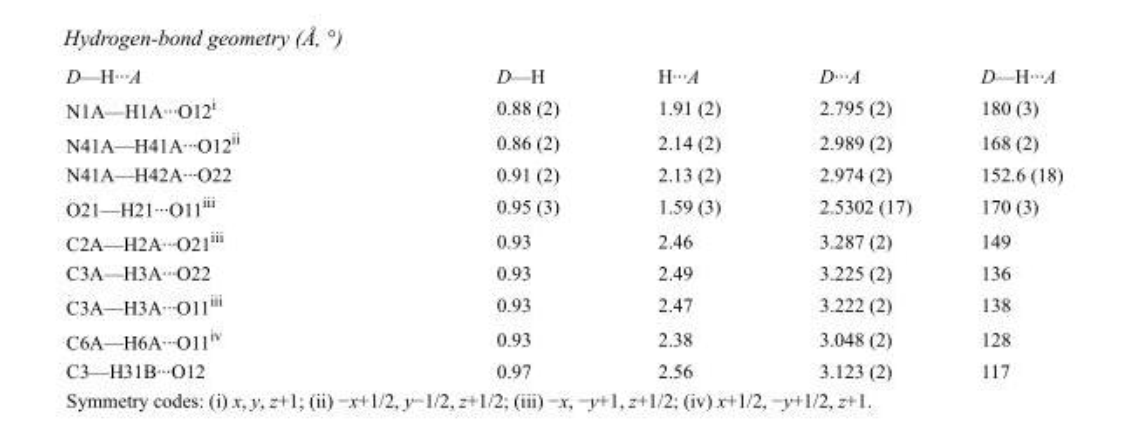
<table><tbody><tr><td>D—H···A</td><td>D—H</td><td>H···A</td><td>D···A</td><td>D—H···A</td></tr><tr><td>N1A—H1A···O12<sup>i</sup></td><td>0.88 (2)</td><td>1.91 (2)</td><td>2.795 (2)</td><td>180 (3)</td></tr><tr><td>N41A—H41A···O12<sup>ii</sup></td><td>0.86 (2)</td><td>2.14 (2)</td><td>2.989 (2)</td><td>168 (2)</td></tr><tr><td>N41A—H42A···O22</td><td>0.91 (2)</td><td>2.13 (2)</td><td>2.974 (2)</td><td>152.6 (18)</td></tr><tr><td>O21—H21···O11<sup>iii</sup></td><td>0.95 (3)</td><td>1.59 (3)</td><td>2.5302 (17)</td><td>170 (3)</td></tr><tr><td>C2A—H2A···O21<sup>iii</sup></td><td>0.93</td><td>2.46</td><td>3.287 (2)</td><td>149</td></tr><tr><td>C3A—H3A···O22</td><td>0.93</td><td>2.49</td><td>3.225 (2)</td><td>136</td></tr><tr><td>C3A—H3A···O11<sup>iii</sup></td><td>0.93</td><td>2.47</td><td>3.222 (2)</td><td>138</td></tr><tr><td>C6A—H6A···O11<sup>iv</sup></td><td>0.93</td><td>2.38</td><td>3.048 (2)</td><td>128</td></tr><tr><td>C3—H31B···O12</td><td>0.97</td><td>2.56</td><td>3.123 (2)</td><td>117</td></tr></tbody></table>